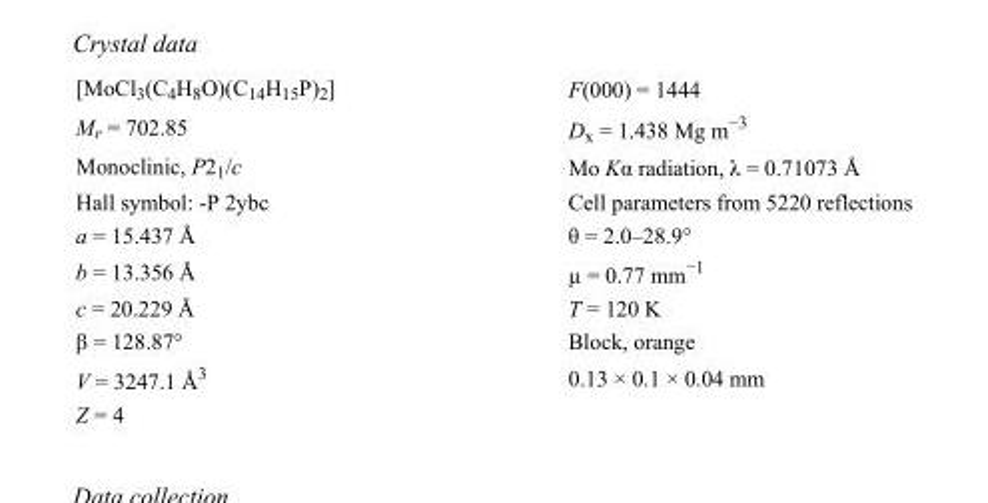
<table><tbody><tr><td>[MoCl<sub>3</sub>(C<sub>4</sub>H<sub>8</sub>O)(C<sub>14</sub>H<sub>15</sub>P)<sub>2</sub>]</td><td>F(000) = 1444</td></tr><tr><td>M<sub>r</sub> = 702.85</td><td>D<sub>x</sub> = 1.438 Mg m<sup>−3</sup></td></tr><tr><td>Monoclinic, P2<sub>1</sub>/c</td><td>Mo Kα radiation, λ = 0.71073 Å</td></tr><tr><td>Hall symbol: -P 2ybc</td><td>Cell parameters from 5220 reflections</td></tr><tr><td>a = 15.437 Å</td><td>θ = 2.0–28.9°</td></tr><tr><td>b = 13.356 Å</td><td>µ = 0.77 mm<sup>−1</sup></td></tr><tr><td>c = 20.229 Å</td><td>T = 120 K</td></tr><tr><td>β = 128.87°</td><td>Block, orange</td></tr><tr><td>V = 3247.1 Å<sup>3</sup></td><td>0.13 × 0.1 × 0.04 mm</td></tr><tr><td>Z = 4</td><td></td></tr></tbody></table>